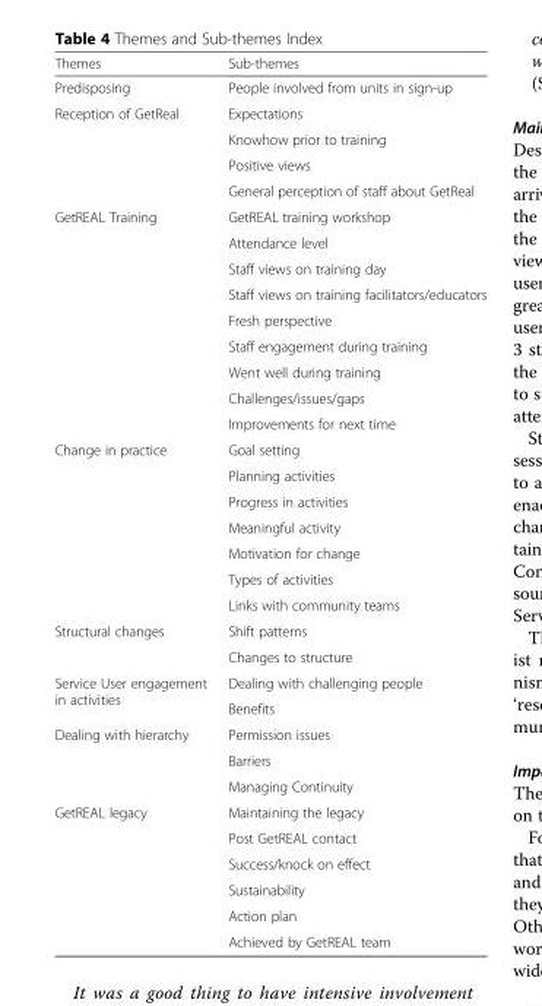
<table><thead><tr><td>Themes</td><td>Sub-themes</td></tr></thead><tbody><tr><td>Predisposing</td><td>People involved from units in sign-up</td></tr><tr><td rowspan="4">Reception of GetReal</td><td>Expectations</td></tr><tr><td>Knowhow prior to training</td></tr><tr><td>Positive views</td></tr><tr><td>General perception of staff about GetReal</td></tr><tr><td rowspan="9">GetREAL Training</td><td>GetREAL training workshop</td></tr><tr><td>Attendance level</td></tr><tr><td>Staff views on training day</td></tr><tr><td>Staff views on training facilitators/educators</td></tr><tr><td>Fresh perspective</td></tr><tr><td>Staff engagement during training</td></tr><tr><td>Went well during training</td></tr><tr><td>Challenges/issues/gaps</td></tr><tr><td>Improvements for next time</td></tr><tr><td rowspan="7">Change in practice</td><td>Goal setting</td></tr><tr><td>Planning activities</td></tr><tr><td>Progress in activities</td></tr><tr><td>Meaningful activity</td></tr><tr><td>Motivation for change</td></tr><tr><td>Types of activities</td></tr><tr><td>Links with community teams</td></tr><tr><td rowspan="2">Structural changes</td><td>Shift patterns</td></tr><tr><td>Changes to structure</td></tr><tr><td rowspan="2">Service User engagement in activities</td><td>Dealing with challenging people</td></tr><tr><td>Benefits</td></tr><tr><td rowspan="3">Dealing with hierarchy</td><td>Permission issues</td></tr><tr><td>Barriers</td></tr><tr><td>Managing Continuity</td></tr><tr><td rowspan="6">GetREAL legacy</td><td>Maintaining the legacy</td></tr><tr><td>Post GetREAL contact</td></tr><tr><td>Success/knock on effect</td></tr><tr><td>Sustainability</td></tr><tr><td>Action plan</td></tr><tr><td>Achieved by GetREAL team</td></tr></tbody></table>